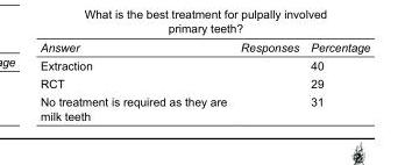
<table><tbody><tr><td>Answer</td><td>Responses</td><td>Percentage</td></tr><tr><td>Extraction</td><td></td><td>40</td></tr><tr><td>RCT</td><td></td><td>29</td></tr><tr><td>No treatment is required as they are milk teeth</td><td></td><td>31</td></tr></tbody></table>